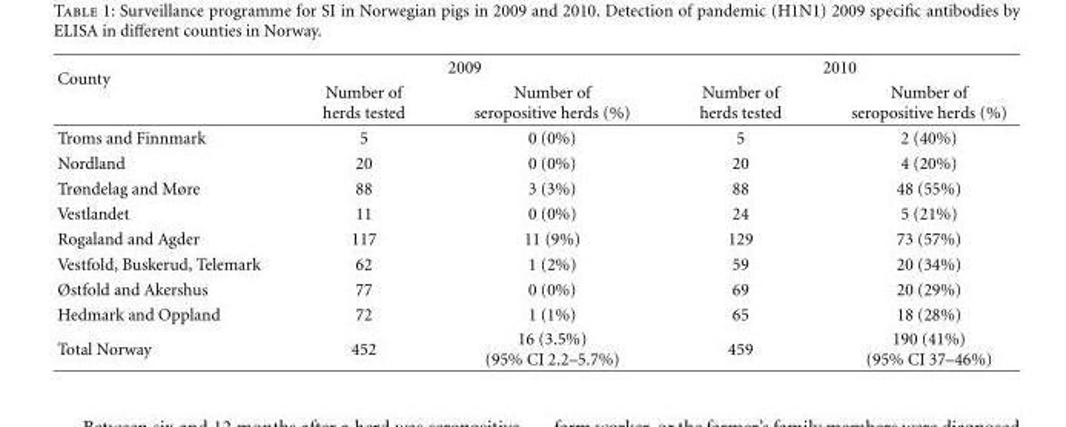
<table><thead><tr><td rowspan="2">County</td><td colspan="2">2009</td><td colspan="2">2010</td></tr><tr><td>Number of herds tested</td><td>Number of seropositive herds (%)</td><td>Number of herds tested</td><td>Number of seropositive herds (%)</td></tr></thead><tbody><tr><td>Troms and Finnmark</td><td>5</td><td>0 (0%)</td><td>5</td><td>2 (40%)</td></tr><tr><td>Nordland</td><td>20</td><td>0 (0%)</td><td>20</td><td>4 (20%)</td></tr><tr><td>Trøndelag and Møre</td><td>88</td><td>3 (3%)</td><td>88</td><td>48 (55%)</td></tr><tr><td>Vestlandet</td><td>11</td><td>0 (0%)</td><td>24</td><td>5 (21%)</td></tr><tr><td>Rogaland and Agder</td><td>117</td><td>11 (9%)</td><td>129</td><td>73 (57%)</td></tr><tr><td>Vestfold, Buskerud, Telemark</td><td>62</td><td>1 (2%)</td><td>59</td><td>20 (34%)</td></tr><tr><td>Østfold and Akershus</td><td>77</td><td>0 (0%)</td><td>69</td><td>20 (29%)</td></tr><tr><td>Hedmark and Oppland</td><td>72</td><td>1 (1%)</td><td>65</td><td>18 (28%)</td></tr><tr><td>Total Norway</td><td>452</td><td>16 (3.5%) (95% CI 2.2–5.7%)</td><td>459</td><td>190 (41%) (95% CI 37–46%)</td></tr></tbody></table>